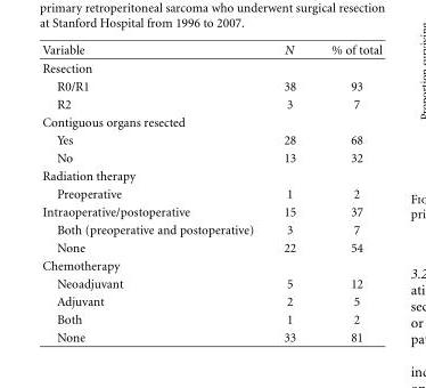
<table><thead><tr><td>Variable</td><td>N</td><td>% of total</td></tr></thead><tbody><tr><td colspan="3">Resection</td></tr><tr><td>R0/R1</td><td>38</td><td>93</td></tr><tr><td>R2</td><td>3</td><td>7</td></tr><tr><td colspan="3">Contiguous organs resected</td></tr><tr><td>Yes</td><td>28</td><td>68</td></tr><tr><td>No</td><td>13</td><td>32</td></tr><tr><td colspan="3">Radiation therapy</td></tr><tr><td>Preoperative</td><td>1</td><td>2</td></tr><tr><td>Intraoperative/postoperative</td><td>15</td><td>37</td></tr><tr><td>Both (preoperative and postoperative)</td><td>3</td><td>7</td></tr><tr><td>None</td><td>22</td><td>54</td></tr><tr><td colspan="3">Chemotherapy</td></tr><tr><td>Neoadjuvant</td><td>5</td><td>12</td></tr><tr><td>Adjuvant</td><td>2</td><td>5</td></tr><tr><td>Both</td><td>1</td><td>2</td></tr><tr><td>None</td><td>33</td><td>81</td></tr></tbody></table>